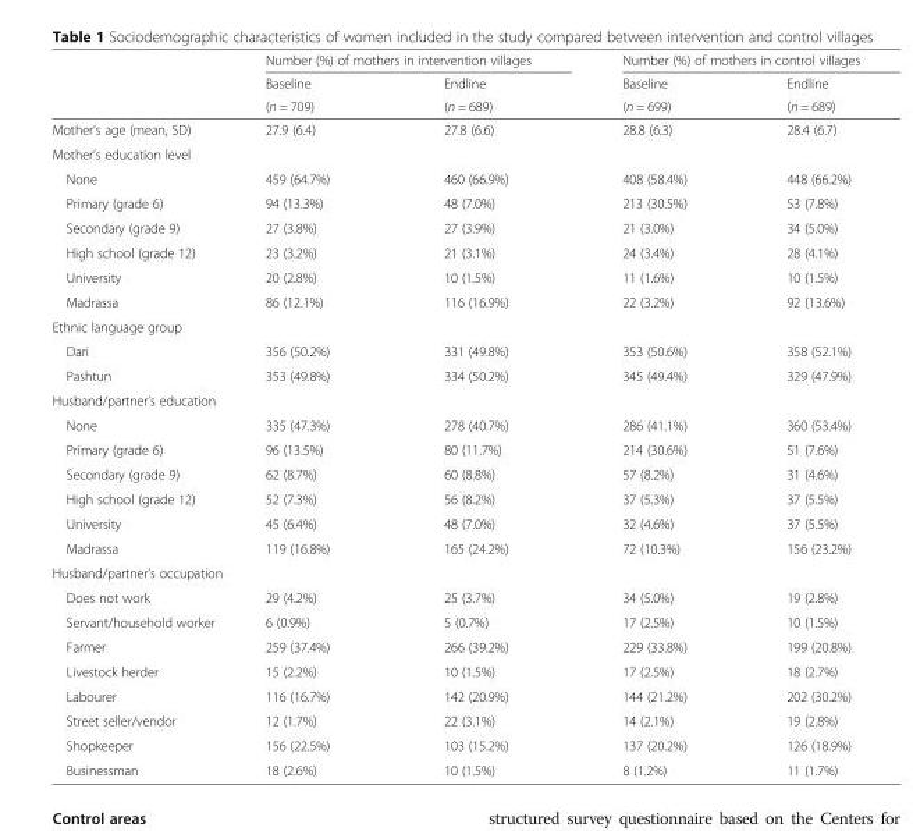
<table><thead><tr><td rowspan="3"></td><td colspan="2">Number (%) of mothers in intervention villages</td><td colspan="2">Number (%) of mothers in control villages</td></tr><tr><td rowspan="2">Baseline (n = 709)</td><td rowspan="2">Endline (n = 689)</td><td rowspan="2">Baseline (n = 699)</td><td rowspan="2">Endline (n = 689)</td></tr><tr></tr></thead><tbody><tr><td>Mother’s age (mean, SD)</td><td>27.9 (6.4)</td><td>27.8 (6.6)</td><td>28.8 (6.3)</td><td>28.4 (6.7)</td></tr><tr><td colspan="5">Mother’s education level</td></tr><tr><td>None</td><td>459 (64.7%)</td><td>460 (66.9%)</td><td>408 (58.4%)</td><td>448 (66.2%)</td></tr><tr><td>Primary (grade 6)</td><td>94 (13.3%)</td><td>48 (7.0%)</td><td>213 (30.5%)</td><td>53 (7.8%)</td></tr><tr><td>Secondary (grade 9)</td><td>27 (3.8%)</td><td>27 (3.9%)</td><td>21 (3.0%)</td><td>34 (5.0%)</td></tr><tr><td>High school (grade 12)</td><td>23 (3.2%)</td><td>21 (3.1%)</td><td>24 (3.4%)</td><td>28 (4.1%)</td></tr><tr><td>University</td><td>20 (2.8%)</td><td>10 (1.5%)</td><td>11 (1.6%)</td><td>10 (1.5%)</td></tr><tr><td>Madrassa</td><td>86 (12.1%)</td><td>116 (16.9%)</td><td>22 (3.2%)</td><td>92 (13.6%)</td></tr><tr><td colspan="5">Ethnic language group</td></tr><tr><td>Dari</td><td>356 (50.2%)</td><td>331 (49.8%)</td><td>353 (50.6%)</td><td>358 (52.1%)</td></tr><tr><td>Pashtun</td><td>353 (49.8%)</td><td>334 (50.2%)</td><td>345 (49.4%)</td><td>329 (47.9%)</td></tr><tr><td colspan="5">Husband/partner’s education</td></tr><tr><td>None</td><td>335 (47.3%)</td><td>278 (40.7%)</td><td>286 (41.1%)</td><td>360 (53.4%)</td></tr><tr><td>Primary (grade 6)</td><td>96 (13.5%)</td><td>80 (11.7%)</td><td>214 (30.6%)</td><td>51 (7.6%)</td></tr><tr><td>Secondary (grade 9)</td><td>62 (8.7%)</td><td>60 (8.8%)</td><td>57 (8.2%)</td><td>31 (4.6%)</td></tr><tr><td>High school (grade 12)</td><td>52 (7.3%)</td><td>56 (8.2%)</td><td>37 (5.3%)</td><td>37 (5.5%)</td></tr><tr><td>University</td><td>45 (6.4%)</td><td>48 (7.0%)</td><td>32 (4.6%)</td><td>37 (5.5%)</td></tr><tr><td>Madrassa</td><td>119 (16.8%)</td><td>165 (24.2%)</td><td>72 (10.3%)</td><td>156 (23.2%)</td></tr><tr><td colspan="5">Husband/partner’s occupation</td></tr><tr><td>Does not work</td><td>29 (4.2%)</td><td>25 (3.7%)</td><td>34 (5.0%)</td><td>19 (2.8%)</td></tr><tr><td>Servant/household worker</td><td>6 (0.9%)</td><td>5 (0.7%)</td><td>17 (2.5%)</td><td>10 (1.5%)</td></tr><tr><td>Farmer</td><td>259 (37.4%)</td><td>266 (39.2%)</td><td>229 (33.8%)</td><td>199 (20.8%)</td></tr><tr><td>Livestock herder</td><td>15 (2.2%)</td><td>10 (1.5%)</td><td>17 (2.5%)</td><td>18 (2.7%)</td></tr><tr><td>Labourer</td><td>116 (16.7%)</td><td>142 (20.9%)</td><td>144 (21.2%)</td><td>202 (30.2%)</td></tr><tr><td>Street seller/vendor</td><td>12 (1.7%)</td><td>22 (3.1%)</td><td>14 (2.1%)</td><td>19 (2.8%)</td></tr><tr><td>Shopkeeper</td><td>156 (22.5%)</td><td>103 (15.2%)</td><td>137 (20.2%)</td><td>126 (18.9%)</td></tr><tr><td>Businessman</td><td>18 (2.6%)</td><td>10 (1.5%)</td><td>8 (1.2%)</td><td>11 (1.7%)</td></tr></tbody></table>